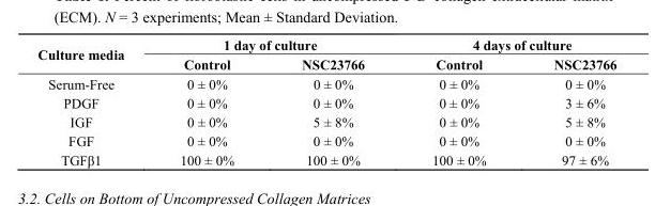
<table><thead><tr><td rowspan="2">Culture media</td><td colspan="2">1 day of culture</td><td colspan="2">4 days of culture</td></tr><tr><td>Control</td><td>NSC23766</td><td>Control</td><td>NSC23766</td></tr></thead><tbody><tr><td>Serum-Free</td><td>0 ± 0%</td><td>0 ± 0%</td><td>0 ± 0%</td><td>0 ± 0%</td></tr><tr><td>PDGF</td><td>0 ± 0%</td><td>0 ± 0%</td><td>0 ± 0%</td><td>3 ± 6%</td></tr><tr><td>IGF</td><td>0 ± 0%</td><td>5 ± 8%</td><td>0 ± 0%</td><td>5 ± 8%</td></tr><tr><td>FGF</td><td>0 ± 0%</td><td>0 ± 0%</td><td>0 ± 0%</td><td>0 ± 0%</td></tr><tr><td>TGFβ1</td><td>100 ± 0%</td><td>100 ± 0%</td><td>100 ± 0%</td><td>97 ± 6%</td></tr></tbody></table>